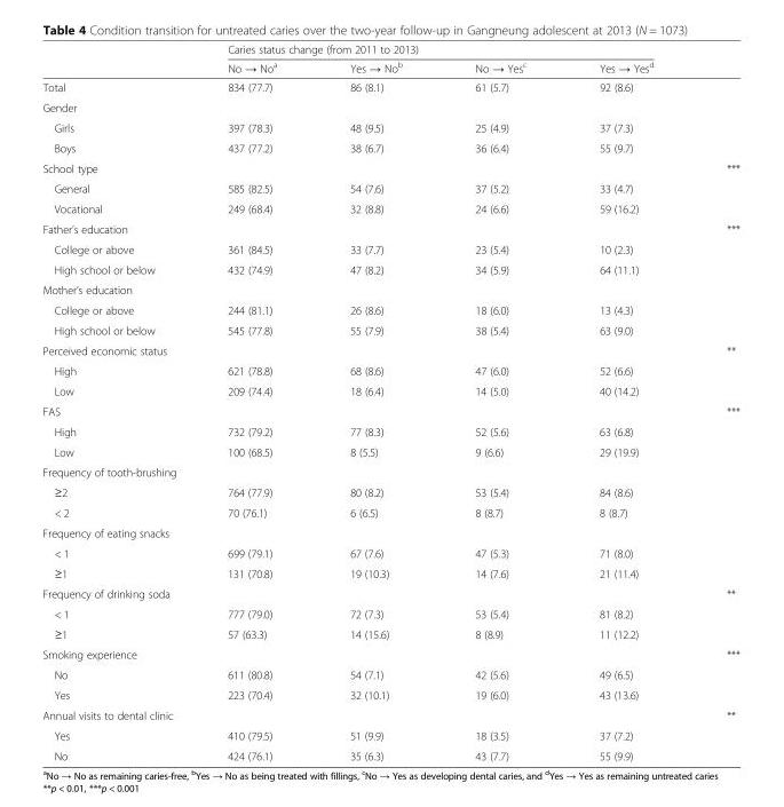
<table><thead><tr><td rowspan="2"></td><td colspan="4">Caries status change (from 2011 to 2013)</td><td rowspan="2"></td></tr><tr><td>No → No<sup>a</sup></td><td>Yes → No<sup>b</sup></td><td>No → Yes<sup>c</sup></td><td>Yes → Yes<sup>d</sup></td></tr></thead><tbody><tr><td>Total</td><td>834 (77.7)</td><td>86 (8.1)</td><td>61 (5.7)</td><td>92 (8.6)</td><td></td></tr><tr><td colspan="6">Gender</td></tr><tr><td>Girls</td><td>397 (78.3)</td><td>48 (9.5)</td><td>25 (4.9)</td><td>37 (7.3)</td><td></td></tr><tr><td>Boys</td><td>437 (77.2)</td><td>38 (6.7)</td><td>36 (6.4)</td><td>55 (9.7)</td><td></td></tr><tr><td colspan="5">School type</td><td>***</td></tr><tr><td>General</td><td>585 (82.5)</td><td>54 (7.6)</td><td>37 (5.2)</td><td>33 (4.7)</td><td></td></tr><tr><td>Vocational</td><td>249 (68.4)</td><td>32 (8.8)</td><td>24 (6.6)</td><td>59 (16.2)</td><td></td></tr><tr><td colspan="5">Father’s education</td><td>***</td></tr><tr><td>College or above</td><td>361 (84.5)</td><td>33 (7.7)</td><td>23 (5.4)</td><td>10 (2.3)</td><td></td></tr><tr><td>High school or below</td><td>432 (74.9)</td><td>47 (8.2)</td><td>34 (5.9)</td><td>64 (11.1)</td><td></td></tr><tr><td colspan="6">Mother’s education</td></tr><tr><td>College or above</td><td>244 (81.1)</td><td>26 (8.6)</td><td>18 (6.0)</td><td>13 (4.3)</td><td></td></tr><tr><td>High school or below</td><td>545 (77.8)</td><td>55 (7.9)</td><td>38 (5.4)</td><td>63 (9.0)</td><td></td></tr><tr><td colspan="5">Perceived economic status</td><td>**</td></tr><tr><td>High</td><td>621 (78.8)</td><td>68 (8.6)</td><td>47 (6.0)</td><td>52 (6.6)</td><td></td></tr><tr><td>Low</td><td>209 (74.4)</td><td>18 (6.4)</td><td>14 (5.0)</td><td>40 (14.2)</td><td></td></tr><tr><td colspan="5">FAS</td><td>***</td></tr><tr><td>High</td><td>732 (79.2)</td><td>77 (8.3)</td><td>52 (5.6)</td><td>63 (6.8)</td><td></td></tr><tr><td>Low</td><td>100 (68.5)</td><td>8 (5.5)</td><td>9 (6.6)</td><td>29 (19.9)</td><td></td></tr><tr><td colspan="6">Frequency of tooth-brushing</td></tr><tr><td>≥2</td><td>764 (77.9)</td><td>80 (8.2)</td><td>53 (5.4)</td><td>84 (8.6)</td><td></td></tr><tr><td>&lt; 2</td><td>70 (76.1)</td><td>6 (6.5)</td><td>8 (8.7)</td><td>8 (8.7)</td><td></td></tr><tr><td colspan="6">Frequency of eating snacks</td></tr><tr><td>&lt; 1</td><td>699 (79.1)</td><td>67 (7.6)</td><td>47 (5.3)</td><td>71 (8.0)</td><td></td></tr><tr><td>≥1</td><td>131 (70.8)</td><td>19 (10.3)</td><td>14 (7.6)</td><td>21 (11.4)</td><td></td></tr><tr><td colspan="5">Frequency of drinking soda</td><td>**</td></tr><tr><td>&lt; 1</td><td>777 (79.0)</td><td>72 (7.3)</td><td>53 (5.4)</td><td>81 (8.2)</td><td></td></tr><tr><td>≥1</td><td>57 (63.3)</td><td>14 (15.6)</td><td>8 (8.9)</td><td>11 (12.2)</td><td></td></tr><tr><td colspan="5">Smoking experience</td><td>***</td></tr><tr><td>No</td><td>611 (80.8)</td><td>54 (7.1)</td><td>42 (5.6)</td><td>49 (6.5)</td><td></td></tr><tr><td>Yes</td><td>223 (70.4)</td><td>32 (10.1)</td><td>19 (6.0)</td><td>43 (13.6)</td><td></td></tr><tr><td colspan="5">Annual visits to dental clinic</td><td>**</td></tr><tr><td>Yes</td><td>410 (79.5)</td><td>51 (9.9)</td><td>18 (3.5)</td><td>37 (7.2)</td><td></td></tr><tr><td>No</td><td>424 (76.1)</td><td>35 (6.3)</td><td>43 (7.7)</td><td>55 (9.9)</td><td></td></tr></tbody></table>